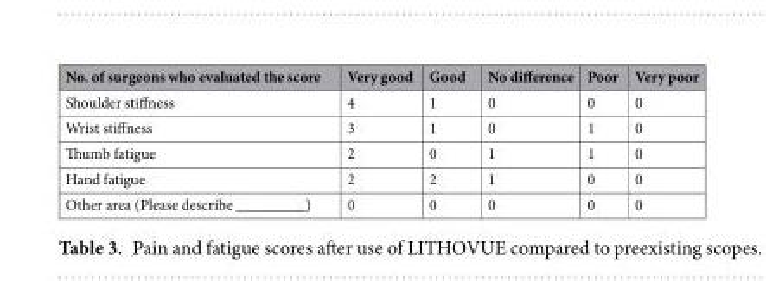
<table><thead><tr><td>No. of surgeons who evaluated the score</td><td>Very good</td><td>Good</td><td>No difference</td><td>Poor</td><td>Very poor</td></tr></thead><tbody><tr><td>Shoulder stiffness</td><td>4</td><td>1</td><td>0</td><td>0</td><td>0</td></tr><tr><td>Wrist stiffness</td><td>3</td><td>1</td><td>0</td><td>1</td><td>0</td></tr><tr><td>Thumb fatigue</td><td>2</td><td>0</td><td>1</td><td>1</td><td>0</td></tr><tr><td>Hand fatigue</td><td>2</td><td>2</td><td>1</td><td>0</td><td>0</td></tr><tr><td>Other area (Please describe _________)</td><td>0</td><td>0</td><td>0</td><td>0</td><td>0</td></tr></tbody></table>